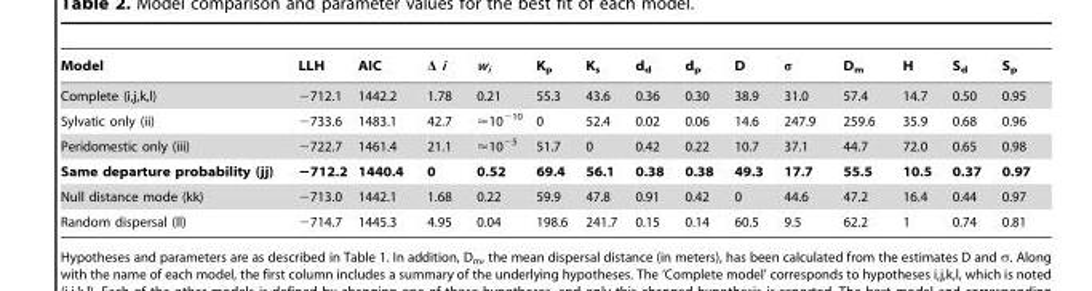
<table><thead><tr><td>Model</td><td>LLH</td><td>AIC</td><td>Δ i</td><td>w<sub>i</sub></td><td>K<sub>p</sub></td><td>K<sub>s</sub></td><td>d<sub>d</sub></td><td>d<sub>p</sub></td><td>D</td><td>σ</td><td>D<sub>m</sub></td><td>H</td><td>S<sub>d</sub></td><td>S<sub>p</sub></td></tr></thead><tbody><tr><td>Complete (i,j,k,l)</td><td>−712.1</td><td>1442.2</td><td>1.78</td><td>0.21</td><td>55.3</td><td>43.6</td><td>0.36</td><td>0.30</td><td>38.9</td><td>31.0</td><td>57.4</td><td>14.7</td><td>0.50</td><td>0.95</td></tr><tr><td>Sylvatic only (ii)</td><td>−733.6</td><td>1483.1</td><td>42.7</td><td>&lt;10210</td><td>0</td><td>52.4</td><td>0.02</td><td>0.06</td><td>14.6</td><td>247.9</td><td>259.6</td><td>35.9</td><td>0.68</td><td>0.96</td></tr><tr><td>Peridomestic only (iii)</td><td>−722.7</td><td>1461.4</td><td>21.1</td><td>&lt;1025</td><td>51.7</td><td>0</td><td>0.42</td><td>0.22</td><td>10.7</td><td>37.1</td><td>44.7</td><td>72.0</td><td>0.65</td><td>0.98</td></tr><tr><td>Same departure probability (jj)</td><td>−712.2</td><td>1440.4</td><td>0</td><td>0.52</td><td>69.4</td><td>56.1</td><td>0.38</td><td>0.38</td><td>49.3</td><td>17.7</td><td>55.5</td><td>10.5</td><td>0.37</td><td>0.97</td></tr><tr><td>Null distance mode (kk)</td><td>−713.0</td><td>1442.1</td><td>1.68</td><td>0.22</td><td>59.9</td><td>47.8</td><td>0.91</td><td>0.42</td><td>0</td><td>44.6</td><td>47.2</td><td>16.4</td><td>0.44</td><td>0.97</td></tr><tr><td>Random dispersal (ll)</td><td>−714.7</td><td>1445.3</td><td>4.95</td><td>0.04</td><td>198.6</td><td>241.7</td><td>0.15</td><td>0.14</td><td>60.5</td><td>9.5</td><td>62.2</td><td>1</td><td>0.74</td><td>0.81</td></tr></tbody></table>